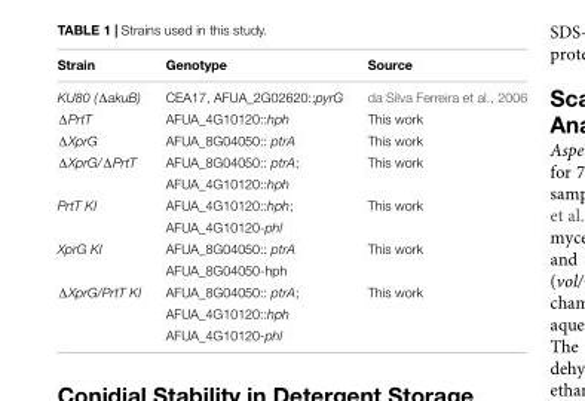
<table><thead><tr><td>Strain</td><td>Genotype</td><td>Source</td></tr></thead><tbody><tr><td>KU80 (ΔakuB)</td><td>CEA17, AFUA_2G02620::pyrG</td><td>da Silva Ferreira et al., 2006</td></tr><tr><td>ΔPrtT</td><td>AFUA_4G10120::hph</td><td>This work</td></tr><tr><td>ΔXprG</td><td>AFUA_8G04050:: ptrA</td><td>This work</td></tr><tr><td rowspan="2">ΔXprG/ΔPrtT</td><td>AFUA_8G04050:: ptrA;</td><td>This work</td></tr><tr><td>AFUA_4G10120::hph</td><td></td></tr><tr><td rowspan="2">PrtT KI</td><td>AFUA_4G10120::hph;</td><td>This work</td></tr><tr><td>AFUA_4G10120-phl</td><td></td></tr><tr><td rowspan="2">XprG KI</td><td>AFUA_8G04050:: ptrA</td><td>This work</td></tr><tr><td>AFUA_8G04050-hph</td><td></td></tr><tr><td rowspan="3">ΔXprG/PrtT KI</td><td>AFUA_8G04050:: ptrA;</td><td>This work</td></tr><tr><td>AFUA_4G10120::hph</td><td></td></tr><tr><td>AFUA_4G10120-phl</td><td></td></tr></tbody></table>